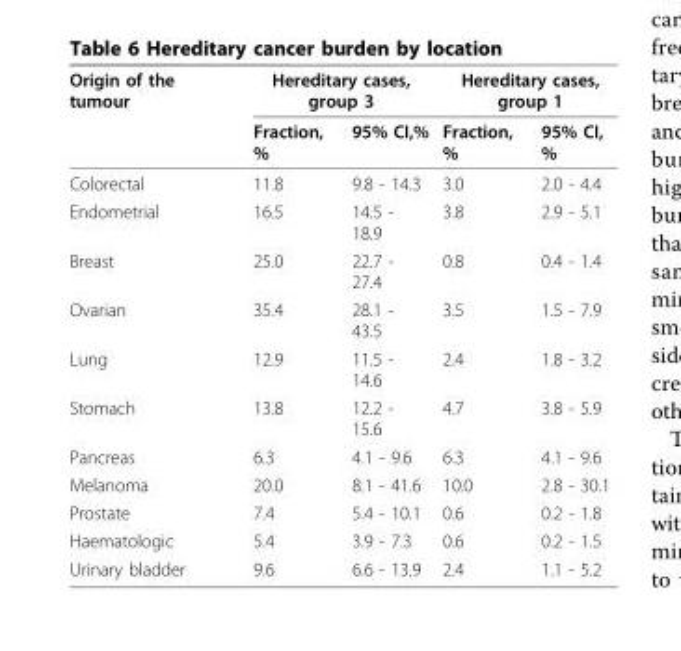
<table><thead><tr><td rowspan="2">Origin of the tumour</td><td colspan="2">Hereditary cases, group 3</td><td colspan="2">Hereditary cases, group 1</td></tr><tr><td>Fraction, %</td><td>95% CI,%</td><td>Fraction, %</td><td>95% CI, %</td></tr></thead><tbody><tr><td>Colorectal</td><td>11.8</td><td>9.8 - 14.3</td><td>3.0</td><td>2.0 - 4.4</td></tr><tr><td>Endometrial</td><td>16.5</td><td>14.5 - 18.9</td><td>3.8</td><td>2.9 - 5.1</td></tr><tr><td>Breast</td><td>25.0</td><td>22.7 - 27.4</td><td>0.8</td><td>0.4 - 1.4</td></tr><tr><td>Ovarian</td><td>35.4</td><td>28.1 - 43.5</td><td>3.5</td><td>1.5 - 7.9</td></tr><tr><td>Lung</td><td>12.9</td><td>11.5 - 14.6</td><td>2.4</td><td>1.8 - 3.2</td></tr><tr><td>Stomach</td><td>13.8</td><td>12.2 - 15.6</td><td>4.7</td><td>3.8 - 5.9</td></tr><tr><td>Pancreas</td><td>6.3</td><td>4.1 - 9.6</td><td>6.3</td><td>4.1 - 9.6</td></tr><tr><td>Melanoma</td><td>20.0</td><td>8.1 - 41.6</td><td>10.0</td><td>2.8 - 30.1</td></tr><tr><td>Prostate</td><td>7.4</td><td>5.4 - 10.1</td><td>0.6</td><td>0.2 - 1.8</td></tr><tr><td>Haematologic</td><td>5.4</td><td>3.9 - 7.3</td><td>0.6</td><td>0.2 - 1.5</td></tr><tr><td>Urinary bladder</td><td>9.6</td><td>6.6 - 13.9</td><td>2.4</td><td>1.1 - 5.2</td></tr></tbody></table>